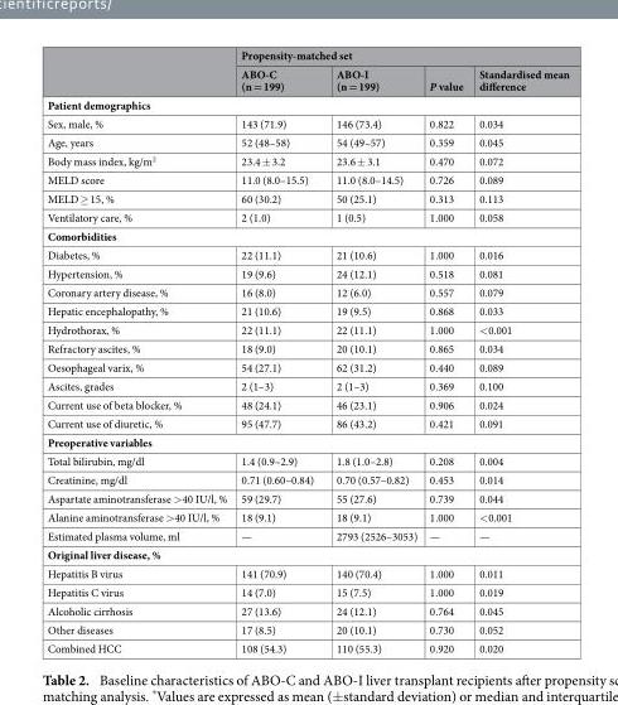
<table><thead><tr><td rowspan="2"></td><td colspan="4">Propensity-matched set</td></tr><tr><td>ABO-C (n = 199)</td><td>ABO-I (n = 199)</td><td>P value</td><td>Standardised mean difference</td></tr></thead><tbody><tr><td colspan="5">Patient demographics</td></tr><tr><td>Sex, male, %</td><td>143 (71.9)</td><td>146 (73.4)</td><td>0.822</td><td>0.034</td></tr><tr><td>Age, years</td><td>52 (48–58)</td><td>54 (49–57)</td><td>0.359</td><td>0.045</td></tr><tr><td>Body mass index, kg/m<sup>2</sup></td><td>23.4 ± 3.2</td><td>23.6 ± 3.1</td><td>0.470</td><td>0.072</td></tr><tr><td>MELD score</td><td>11.0 (8.0–15.5)</td><td>11.0 (8.0–14.5)</td><td>0.726</td><td>0.089</td></tr><tr><td>MELD ≥ 15, %</td><td>60 (30.2)</td><td>50 (25.1)</td><td>0.313</td><td>0.113</td></tr><tr><td>Ventilatory care, %</td><td>2 (1.0)</td><td>1 (0.5)</td><td>1.000</td><td>0.058</td></tr><tr><td colspan="5">Comorbidities</td></tr><tr><td>Diabetes, %</td><td>22 (11.1)</td><td>21 (10.6)</td><td>1.000</td><td>0.016</td></tr><tr><td>Hypertension, %</td><td>19 (9.6)</td><td>24 (12.1)</td><td>0.518</td><td>0.081</td></tr><tr><td>Coronary artery disease, %</td><td>16 (8.0)</td><td>12 (6.0)</td><td>0.557</td><td>0.079</td></tr><tr><td>Hepatic encephalopathy, %</td><td>21 (10.6)</td><td>19 (9.5)</td><td>0.868</td><td>0.033</td></tr><tr><td>Hydrothorax, %</td><td>22 (11.1)</td><td>22 (11.1)</td><td>1.000</td><td>&lt;0.001</td></tr><tr><td>Refractory ascites, %</td><td>18 (9.0)</td><td>20 (10.1)</td><td>0.865</td><td>0.034</td></tr><tr><td>Oesophageal varix, %</td><td>54 (27.1)</td><td>62 (31.2)</td><td>0.440</td><td>0.089</td></tr><tr><td>Ascites, grades</td><td>2 (1–3)</td><td>2 (1–3)</td><td>0.369</td><td>0.100</td></tr><tr><td>Current use of beta blocker, %</td><td>48 (24.1)</td><td>46 (23.1)</td><td>0.906</td><td>0.024</td></tr><tr><td>Current use of diuretic, %</td><td>95 (47.7)</td><td>86 (43.2)</td><td>0.421</td><td>0.091</td></tr><tr><td colspan="5">Preoperative variables</td></tr><tr><td>Total bilirubin, mg/dl</td><td>1.4 (0.9–2.9)</td><td>1.8 (1.0–2.8)</td><td>0.208</td><td>0.004</td></tr><tr><td>Creatinine, mg/dl</td><td>0.71 (0.60–0.84)</td><td>0.70 (0.57–0.82)</td><td>0.453</td><td>0.014</td></tr><tr><td>Aspartate aminotransferase &gt;40 IU/l, %</td><td>59 (29.7)</td><td>55 (27.6)</td><td>0.739</td><td>0.044</td></tr><tr><td>Alanine aminotransferase &gt;40 IU/l, %</td><td>18 (9.1)</td><td>18 (9.1)</td><td>1.000</td><td>&lt;0.001</td></tr><tr><td>Estimated plasma volume, ml</td><td>—</td><td>2793 (2526–3053)</td><td>—</td><td>—</td></tr><tr><td colspan="5">Original liver disease, %</td></tr><tr><td>Hepatitis B virus</td><td>141 (70.9)</td><td>140 (70.4)</td><td>1.000</td><td>0.011</td></tr><tr><td>Hepatitis C virus</td><td>14 (7.0)</td><td>15 (7.5)</td><td>1.000</td><td>0.019</td></tr><tr><td>Alcoholic cirrhosis</td><td>27 (13.6)</td><td>24 (12.1)</td><td>0.764</td><td>0.045</td></tr><tr><td>Other diseases</td><td>17 (8.5)</td><td>20 (10.1)</td><td>0.730</td><td>0.052</td></tr><tr><td>Combined HCC</td><td>108 (54.3)</td><td>110 (55.3)</td><td>0.920</td><td>0.020</td></tr></tbody></table>